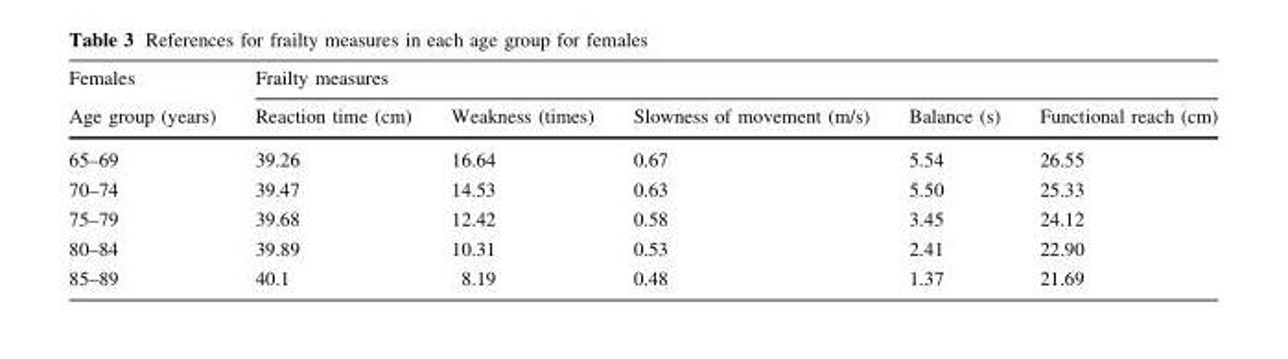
<table><thead><tr><td rowspan="2">Females Age group (years)</td><td colspan="5">Frailty measures</td></tr><tr><td>Reaction time (cm)</td><td>Weakness (times)</td><td>Slowness of movement (m/s)</td><td>Balance (s)</td><td>Functional reach (cm)</td></tr></thead><tbody><tr><td>65–69</td><td>39.26</td><td>16.64</td><td>0.67</td><td>5.54</td><td>26.55</td></tr><tr><td>70–74</td><td>39.47</td><td>14.53</td><td>0.63</td><td>5.50</td><td>25.33</td></tr><tr><td>75–79</td><td>39.68</td><td>12.42</td><td>0.58</td><td>3.45</td><td>24.12</td></tr><tr><td>80–84</td><td>39.89</td><td>10.31</td><td>0.53</td><td>2.41</td><td>22.90</td></tr><tr><td>85–89</td><td>40.1</td><td>8.19</td><td>0.48</td><td>1.37</td><td>21.69</td></tr></tbody></table>